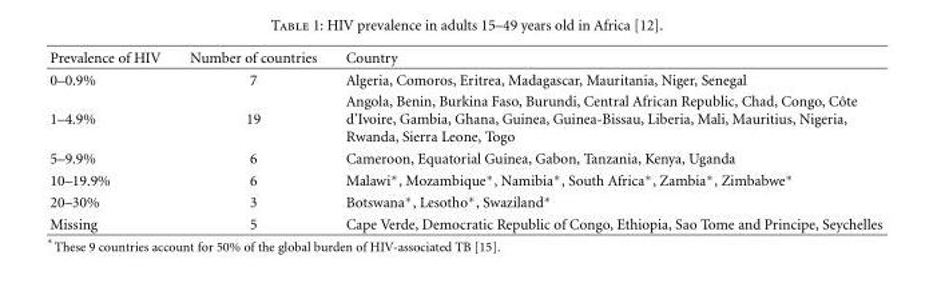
<table><thead><tr><td>Prevalence of HIV</td><td>Number of countries</td><td>Country</td></tr></thead><tbody><tr><td>0–0.9%</td><td>7</td><td>Algeria, Comoros, Eritrea, Madagascar, Mauritania, Niger, Senegal</td></tr><tr><td>1–4.9%</td><td>19</td><td>Angola, Benin, Burkina Faso, Burundi, Central African Republic, Chad, Congo, Cˆote d’Ivoire, Gambia, Ghana, Guinea, Guinea-Bissau, Liberia, Mali, Mauritius, Nigeria, Rwanda, Sierra Leone, Togo</td></tr><tr><td>5–9.9%</td><td>6</td><td>Cameroon, Equatorial Guinea, Gabon, Tanzania, Kenya, Uganda</td></tr><tr><td>10–19.9%</td><td>6</td><td>Malawi∗, Mozambique∗, Namibia∗, South Africa∗, Zambia∗, Zimbabwe∗</td></tr><tr><td>20–30%</td><td>3</td><td>Botswana∗, Lesotho∗, Swaziland∗</td></tr><tr><td>Missing</td><td>5</td><td>Cape Verde, Democratic Republic of Congo, Ethiopia, Sao Tome and Principe, Seychelles</td></tr></tbody></table>